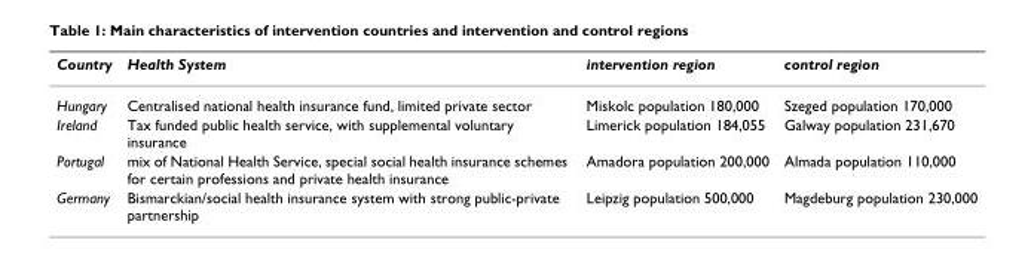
<table><thead><tr><td>Country</td><td>Health System</td><td>intervention region</td><td>control region</td></tr></thead><tbody><tr><td>Hungary</td><td>Centralised national health insurance fund, limited private sector</td><td>Miskolc population 180,000</td><td>Szeged population 170,000</td></tr><tr><td>Ireland</td><td>Tax funded public health service, with supplemental voluntary insurance</td><td>Limerick population 184,055</td><td>Galway population 231,670</td></tr><tr><td>Portugal</td><td>mix of National Health Service, special social health insurance schemes for certain professions and private health insurance</td><td>Amadora population 200,000</td><td>Almada population 110,000</td></tr><tr><td>Germany</td><td>Bismarckian/social health insurance system with strong public-private partnership</td><td>Leipzig population 500,000</td><td>Magdeburg population 230,000</td></tr></tbody></table>